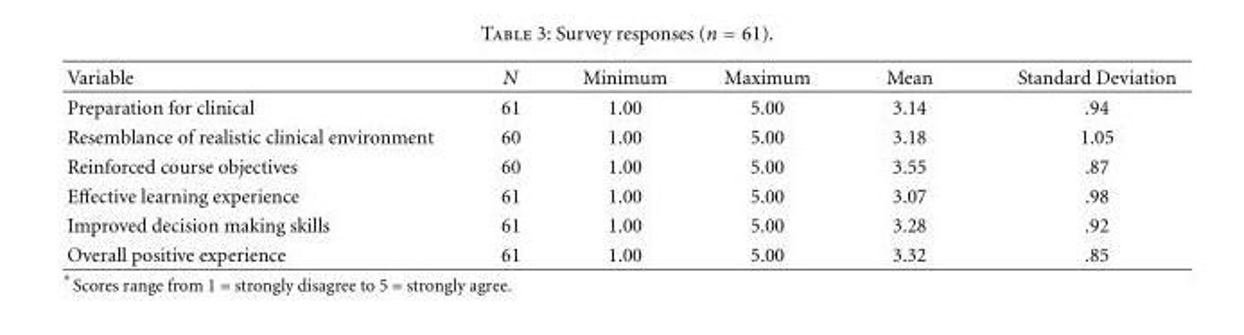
<table><thead><tr><td>Variable</td><td>N</td><td>Minimum</td><td>Maximum</td><td>Mean</td><td>Standard Deviation</td></tr></thead><tbody><tr><td>Preparation for clinical</td><td>61</td><td>1.00</td><td>5.00</td><td>3.14</td><td>.94</td></tr><tr><td>Resemblance of realistic clinical environment</td><td>60</td><td>1.00</td><td>5.00</td><td>3.18</td><td>1.05</td></tr><tr><td>Reinforced course objectives</td><td>60</td><td>1.00</td><td>5.00</td><td>3.55</td><td>.87</td></tr><tr><td>Effective learning experience</td><td>61</td><td>1.00</td><td>5.00</td><td>3.07</td><td>.98</td></tr><tr><td>Improved decision making skills</td><td>61</td><td>1.00</td><td>5.00</td><td>3.28</td><td>.92</td></tr><tr><td>Overall positive experience</td><td>61</td><td>1.00</td><td>5.00</td><td>3.32</td><td>.85</td></tr></tbody></table>